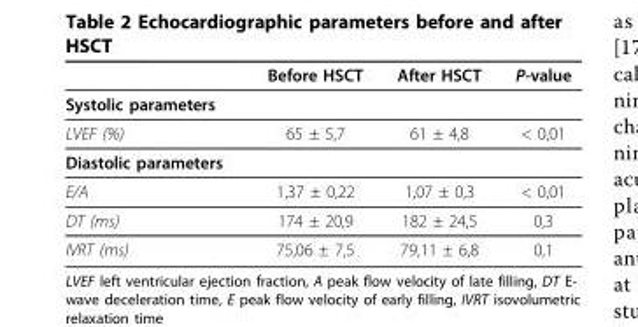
<table><thead><tr><td></td><td>Before HSCT</td><td>After HSCT</td><td>P-value</td></tr></thead><tbody><tr><td colspan="4">Systolic parameters</td></tr><tr><td>LVEF (%)</td><td>65 ± 5,7</td><td>61 ± 4,8</td><td>&lt; 0,01</td></tr><tr><td colspan="4">Diastolic parameters</td></tr><tr><td>E/A</td><td>1,37 ± 0,22</td><td>1,07 ± 0,3</td><td>&lt; 0,01</td></tr><tr><td>DT (ms)</td><td>174 ± 20,9</td><td>182 ± 24,5</td><td>0,3</td></tr><tr><td>IVRT (ms)</td><td>75,06 ± 7,5</td><td>79,11 ± 6,8</td><td>0,1</td></tr></tbody></table>